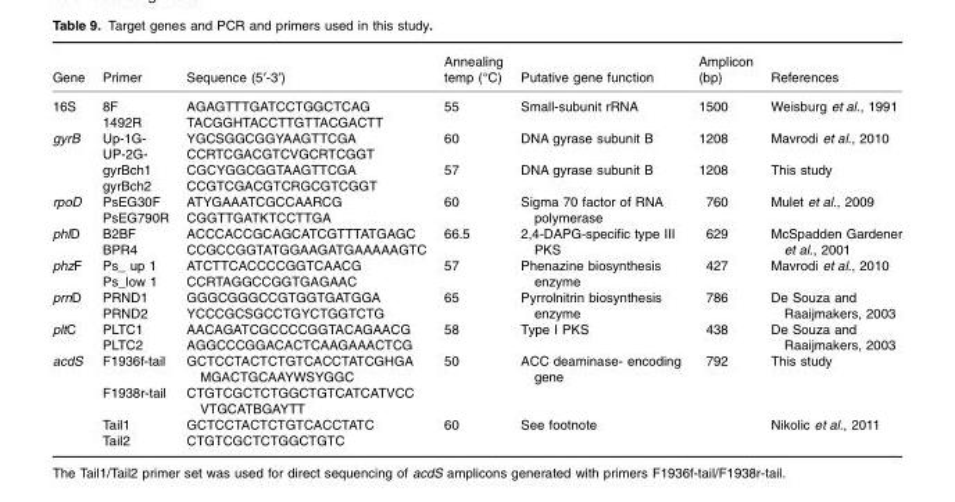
<table><thead><tr><td>Gene</td><td>Primer</td><td>Sequence (5′-3′)</td><td>Annealing temp (°C)</td><td>Putative gene function</td><td>Amplicon (bp)</td><td>References</td></tr></thead><tbody><tr><td rowspan="2">16S</td><td>8F</td><td>AGAGTTTGATCCTGGCTCAG</td><td rowspan="2">55</td><td rowspan="2">Small-subunit rRNA</td><td rowspan="2">1500</td><td rowspan="2">Weisburg et al., 1991</td></tr><tr><td>1492R</td><td>TACGGHTACCTTGTTACGACTT</td></tr><tr><td rowspan="4">gyrB</td><td>Up-1G-</td><td>YGCSGGCGGYAAGTTCGA</td><td rowspan="2">60</td><td rowspan="2">DNA gyrase subunit B</td><td rowspan="2">1208</td><td rowspan="2">Mavrodi et al., 2010</td></tr><tr><td>UP-2G-</td><td>CCRTCGACGTCVGCRTCGGT</td></tr><tr><td>gyrBch1</td><td>CGCYGGCGGTAAGTTCGA</td><td rowspan="2">57</td><td rowspan="2">DNA gyrase subunit B</td><td rowspan="2">1208</td><td rowspan="2">This study</td></tr><tr><td>gyrBch2</td><td>CCGTCGACGTCRGCGTCGGT</td></tr><tr><td rowspan="2">rpoD</td><td>PsEG30F</td><td>ATYGAAATCGCCAARCG</td><td rowspan="2">60</td><td rowspan="2">Sigma 70 factor of RNA polymerase</td><td rowspan="2">760</td><td rowspan="2">Mulet et al., 2009</td></tr><tr><td>PsEG790R</td><td>CGGTTGATKTCCTTGA</td></tr><tr><td rowspan="2">phlD</td><td>B2BF</td><td>ACCCACCGCAGCATCGTTTATGAGC</td><td rowspan="2">66.5</td><td rowspan="2">2,4-DAPG-specific type III PKS</td><td rowspan="2">629</td><td rowspan="2">McSpadden Gardener et al., 2001</td></tr><tr><td>BPR4</td><td>CCGCCGGTATGGAAGATGAAAAAGTC</td></tr><tr><td rowspan="2">phzF</td><td>Ps_ up 1</td><td>ATCTTCACCCCGGTCAACG</td><td rowspan="2">57</td><td rowspan="2">Phenazine biosynthesis enzyme</td><td rowspan="2">427</td><td rowspan="2">Mavrodi et al., 2010</td></tr><tr><td>Ps_low 1</td><td>CCRTAGGCCGGTGAGAAC</td></tr><tr><td rowspan="2">prnD</td><td>PRND1</td><td>GGGCGGGCCGTGGTGATGGA</td><td rowspan="2">65</td><td rowspan="2">Pyrrolnitrin biosynthesis enzyme</td><td rowspan="2">786</td><td rowspan="2">De Souza and Raaijmakers, 2003</td></tr><tr><td>PRND2</td><td>YCCCGCSGCCTGYCTGGTCTG</td></tr><tr><td rowspan="2">pltC</td><td>PLTC1</td><td>AACAGATCGCCCCGGTACAGAACG</td><td rowspan="2">58</td><td rowspan="2">Type I PKS</td><td rowspan="2">438</td><td rowspan="2">De Souza and Raaijmakers, 2003</td></tr><tr><td>PLTC2</td><td>AGGCCCGGACACTCAAGAAACTCG</td></tr><tr><td rowspan="4">acdS</td><td>F1936f-tail</td><td>GCTCCTACTCTGTCACCTATCGHGA MGACTGCAAYWSYGGC</td><td rowspan="2">50</td><td rowspan="2">ACC deaminase- encoding gene</td><td rowspan="2">792</td><td rowspan="2">This study</td></tr><tr><td>F1938r-tail</td><td>CTGTCGCTCTGGCTGTCATCATVCC VTGCATBGAYTT</td></tr><tr><td>Tail1</td><td>GCTCCTACTCTGTCACCTATC</td><td rowspan="2">60</td><td rowspan="2">See footnote</td><td></td><td rowspan="2">Nikolic et al., 2011</td></tr><tr><td>Tail2</td><td>CTGTCGCTCTGGCTGTC</td><td></td></tr></tbody></table>